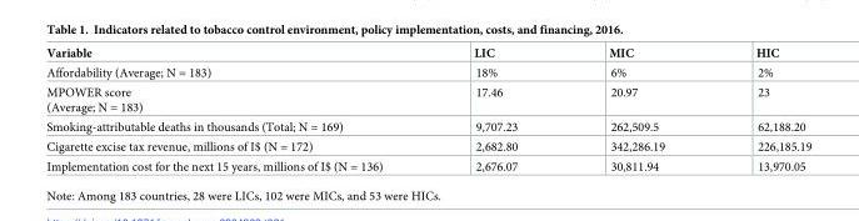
<table><thead><tr><td>Variable</td><td>LIC</td><td>MIC</td><td>HIC</td></tr></thead><tbody><tr><td>Affordability (Average; N = 183)</td><td>18%</td><td>6%</td><td>2%</td></tr><tr><td>MPOWER score (Average; N = 183)</td><td>17.46</td><td>20.97</td><td>23</td></tr><tr><td>Smoking-attributable deaths in thousands (Total; N = 169)</td><td>9,707.23</td><td>262,509.5</td><td>62,188.20</td></tr><tr><td>Cigarette excise tax revenue, millions of I$ (N = 172)</td><td>2,682.80</td><td>342,286.19</td><td>226,185.19</td></tr><tr><td>Implementation cost for the next 15 years, millions of I$ (N = 136)</td><td>2,676.07</td><td>30,811.94</td><td>13,970.05</td></tr></tbody></table>